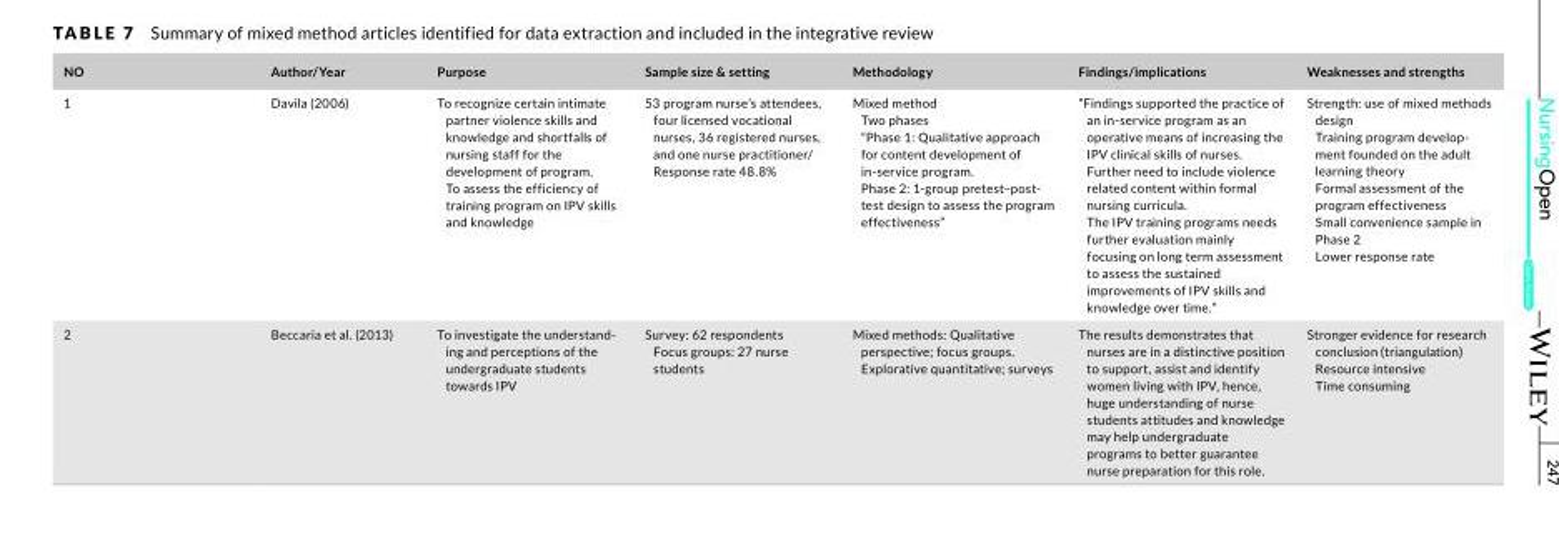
<table><thead><tr><td>NO</td><td>Author/Year</td><td>Purpose</td><td>Sample size &amp; setting</td><td>Methodology</td><td>Findings/implications</td><td>Weaknesses and strengths</td></tr></thead><tbody><tr><td>1</td><td>Davila (2006)</td><td>To recognize certain intimate partner violence skills and knowledge and shortfalls of nursing staff for the development of program. To assess the efficiency of training program on IPV skills and knowledge</td><td>53 program nurse’s attendees, four licensed vocational nurses, 36 registered nurses, and one nurse practitioner/ Response rate 48.8%</td><td>Mixed method Two phases “Phase 1: Qualitative approach for content development of in- service program. Phase 2: 1- group pretest–post- test design to assess the program effectiveness”</td><td>“Findings supported the practice of an in- service program as an operative means of increasing the IPV clinical skills of nurses. Further need to include violence related content within formal nursing curricula. The IPV training programs needs further evaluation mainly focusing on long term assessment to assess the sustained improvements of IPV skills and knowledge over time.”</td><td>Strength: use of mixed methods design Training program develop- ment founded on the adult learning theory Formal assessment of the program effectiveness Small convenience sample in Phase 2 Lower response rate</td></tr><tr><td>2</td><td>Beccaria et al. (2013)</td><td>To investigate the understand- ing and perceptions of the undergraduate students towards IPV</td><td>Survey: 62 respondents Focus groups: 27 nurse students</td><td>Mixed methods: Qualitative perspective; focus groups. Explorative quantitative; surveys</td><td>The results demonstrates that nurses are in a distinctive position to support, assist and identify women living with IPV, hence, huge understanding of nurse students attitudes and knowledge may help undergraduate programs to better guarantee nurse preparation for this role.</td><td>Stronger evidence for research conclusion (triangulation) Resource intensive Time consuming</td></tr></tbody></table>